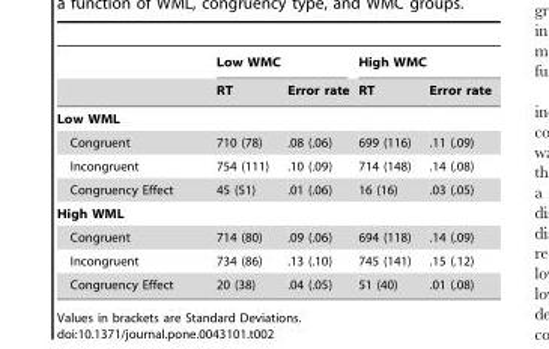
<table><thead><tr><td rowspan="2"></td><td colspan="2">Low WMC</td><td colspan="2">High WMC</td></tr><tr><td>RT</td><td>Error rate</td><td>RT</td><td>Error rate</td></tr></thead><tbody><tr><td colspan="5">Low WML</td></tr><tr><td>Congruent</td><td>710 (78)</td><td>.08 (.06)</td><td>699 (116)</td><td>.11 (.09)</td></tr><tr><td>Incongruent</td><td>754 (111)</td><td>.10 (.09)</td><td>714 (148)</td><td>.14 (.08)</td></tr><tr><td>Congruency Effect</td><td>45 (51)</td><td>.01 (.06)</td><td>16 (16)</td><td>.03 (.05)</td></tr><tr><td colspan="5">High WML</td></tr><tr><td>Congruent</td><td>714 (80)</td><td>.09 (.06)</td><td>694 (118)</td><td>.14 (.09)</td></tr><tr><td>Incongruent</td><td>734 (86)</td><td>.13 (.10)</td><td>745 (141)</td><td>.15 (.12)</td></tr><tr><td>Congruency Effect</td><td>20 (38)</td><td>.04 (.05)</td><td>51 (40)</td><td>.01 (.08)</td></tr></tbody></table>